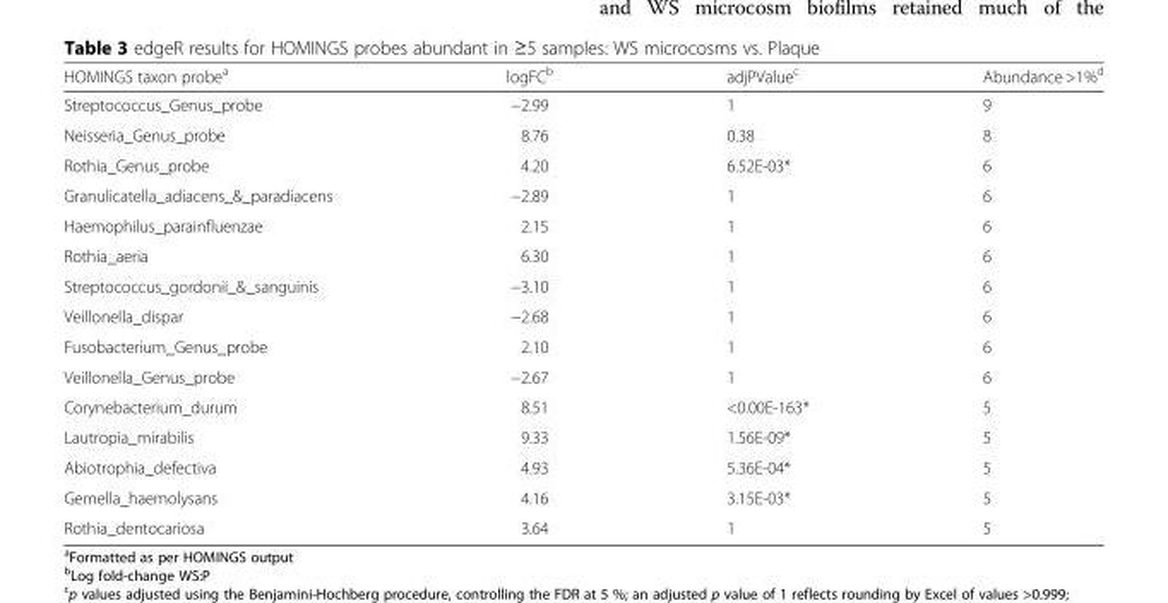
<table><thead><tr><td>HOMINGS taxon probe<sup>a</sup></td><td>logFC<sup>b</sup></td><td>adjPValue<sup>c</sup></td><td>Abundance &gt;1%<sup>d</sup></td></tr></thead><tbody><tr><td>Streptococcus_Genus_probe</td><td>−2.99</td><td>1</td><td>9</td></tr><tr><td>Neisseria_Genus_probe</td><td>8.76</td><td>0.38</td><td>8</td></tr><tr><td>Rothia_Genus_probe</td><td>4.20</td><td>6.52E-03*</td><td>6</td></tr><tr><td>Granulicatella_adiacens_&amp;_paradiacens</td><td>−2.89</td><td>1</td><td>6</td></tr><tr><td>Haemophilus_parainfluenzae</td><td>2.15</td><td>1</td><td>6</td></tr><tr><td>Rothia_aeria</td><td>6.30</td><td>1</td><td>6</td></tr><tr><td>Streptococcus_gordonii_&amp;_sanguinis</td><td>−3.10</td><td>1</td><td>6</td></tr><tr><td>Veillonella_dispar</td><td>−2.68</td><td>1</td><td>6</td></tr><tr><td>Fusobacterium_Genus_probe</td><td>2.10</td><td>1</td><td>6</td></tr><tr><td>Veillonella_Genus_probe</td><td>−2.67</td><td>1</td><td>6</td></tr><tr><td>Corynebacterium_durum</td><td>8.51</td><td>&lt;0.00E-163*</td><td>5</td></tr><tr><td>Lautropia_mirabilis</td><td>9.33</td><td>1.56E-09*</td><td>5</td></tr><tr><td>Abiotrophia_defectiva</td><td>4.93</td><td>5.36E-04*</td><td>5</td></tr><tr><td>Gemella_haemolysans</td><td>4.16</td><td>3.15E-03*</td><td>5</td></tr><tr><td>Rothia_dentocariosa</td><td>3.64</td><td>1</td><td>5</td></tr></tbody></table>